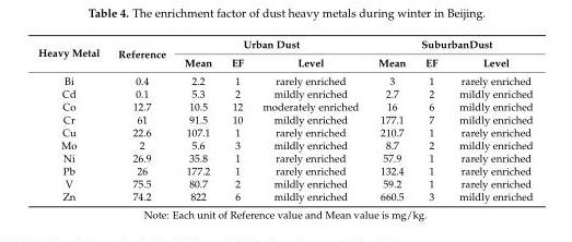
<table><thead><tr><td rowspan="2">Heavy Metal</td><td rowspan="2">Reference</td><td colspan="3">Urban Dust</td><td colspan="3">SuburbanDust</td></tr><tr><td>Mean</td><td>EF</td><td>Level</td><td>Mean</td><td>EF</td><td>Level</td></tr></thead><tbody><tr><td>Bi</td><td>0.4</td><td>2.2</td><td>1</td><td>rarely enriched</td><td>3</td><td>1</td><td>rarely enriched</td></tr><tr><td>Cd</td><td>0.1</td><td>5.3</td><td>2</td><td>mildly enriched</td><td>2.7</td><td>2</td><td>mildly enriched</td></tr><tr><td>Co</td><td>12.7</td><td>10.5</td><td>12</td><td>moderately enriched</td><td>16</td><td>6</td><td>mildly enriched</td></tr><tr><td>Cr</td><td>61</td><td>91.5</td><td>10</td><td>mildly enriched</td><td>177.1</td><td>7</td><td>mildly enriched</td></tr><tr><td>Cu</td><td>22.6</td><td>107.1</td><td>1</td><td>rarely enriched</td><td>210.7</td><td>1</td><td>rarely enriched</td></tr><tr><td>Mo</td><td>2</td><td>5.6</td><td>3</td><td>mildly enriched</td><td>8.7</td><td>2</td><td>mildly enriched</td></tr><tr><td>Ni</td><td>26.9</td><td>35.8</td><td>1</td><td>rarely enriched</td><td>57.9</td><td>1</td><td>rarely enriched</td></tr><tr><td>Pb</td><td>26</td><td>177.2</td><td>1</td><td>rarely enriched</td><td>132.4</td><td>1</td><td>rarely enriched</td></tr><tr><td>V</td><td>75.5</td><td>80.7</td><td>2</td><td>mildly enriched</td><td>59.2</td><td>1</td><td>rarely enriched</td></tr><tr><td>Zn</td><td>74.2</td><td>822</td><td>6</td><td>mildly enriched</td><td>660.5</td><td>3</td><td>mildly enriched</td></tr></tbody></table>